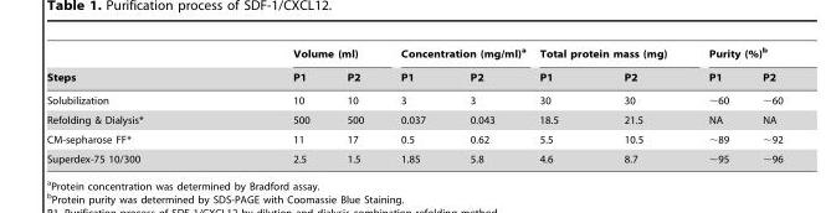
<table><thead><tr><td rowspan="2">Steps</td><td colspan="2">Volume (ml)</td><td colspan="2">Concentration (mg/ml)<sup>a</sup></td><td colspan="2">Total protein mass (mg)</td><td colspan="2">Purity (%)<sup>b</sup></td></tr><tr><td>P1</td><td>P2</td><td>P1</td><td>P2</td><td>P1</td><td>P2</td><td>P1</td><td>P2</td></tr></thead><tbody><tr><td>Solubilization</td><td>10</td><td>10</td><td>3</td><td>3</td><td>30</td><td>30</td><td>∼60</td><td>∼60</td></tr><tr><td>Refolding &amp; Dialysis*</td><td>500</td><td>500</td><td>0.037</td><td>0.043</td><td>18.5</td><td>21.5</td><td>NA</td><td>NA</td></tr><tr><td>CM-sepharose FF*</td><td>11</td><td>17</td><td>0.5</td><td>0.62</td><td>5.5</td><td>10.5</td><td>∼89</td><td>∼92</td></tr><tr><td>Superdex-75 10/300</td><td>2.5</td><td>1.5</td><td>1.85</td><td>5.8</td><td>4.6</td><td>8.7</td><td>∼95</td><td>∼96</td></tr></tbody></table>